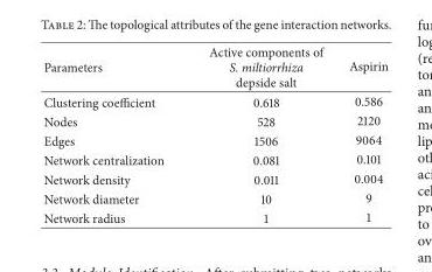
<table><thead><tr><td>Parameters</td><td>Active components of S. miltiorrhiza depside salt</td><td>Aspirin</td></tr></thead><tbody><tr><td>Clustering coefficient</td><td>0.618</td><td>0.586</td></tr><tr><td>Nodes</td><td>528</td><td>2120</td></tr><tr><td>Edges</td><td>1506</td><td>9064</td></tr><tr><td>Network centralization</td><td>0.081</td><td>0.101</td></tr><tr><td>Network density</td><td>0.011</td><td>0.004</td></tr><tr><td>Network diameter</td><td>10</td><td>9</td></tr><tr><td>Network radius</td><td>1</td><td>1</td></tr></tbody></table>